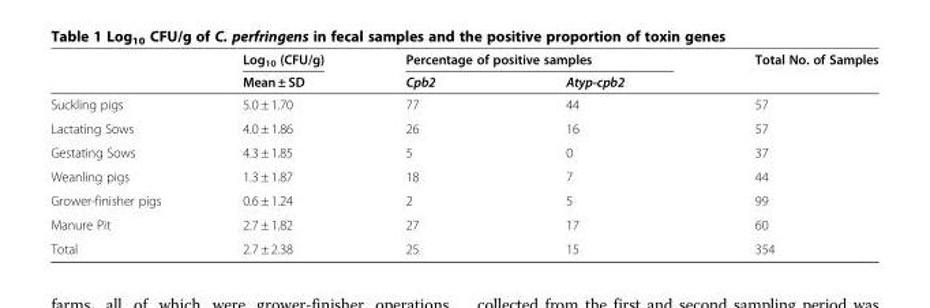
<table><thead><tr><td rowspan="2"></td><td rowspan="2">Log<sub>10</sub> (CFU/g) Mean ± SD</td><td colspan="2">Percentage of positive samples</td><td rowspan="2">Total No. of Samples</td></tr><tr><td>Cpb2</td><td>Atyp-cpb2</td></tr></thead><tbody><tr><td>Suckling pigs</td><td>5.0 ± 1.70</td><td>77</td><td>44</td><td>57</td></tr><tr><td>Lactating Sows</td><td>4.0 ± 1.86</td><td>26</td><td>16</td><td>57</td></tr><tr><td>Gestating Sows</td><td>4.3 ± 1.85</td><td>5</td><td>0</td><td>37</td></tr><tr><td>Weanling pigs</td><td>1.3 ± 1.87</td><td>18</td><td>7</td><td>44</td></tr><tr><td>Grower-finisher pigs</td><td>0.6 ± 1.24</td><td>2</td><td>5</td><td>99</td></tr><tr><td>Manure Pit</td><td>2.7 ± 1.82</td><td>27</td><td>17</td><td>60</td></tr><tr><td>Total</td><td>2.7 ± 2.38</td><td>25</td><td>15</td><td>354</td></tr></tbody></table>